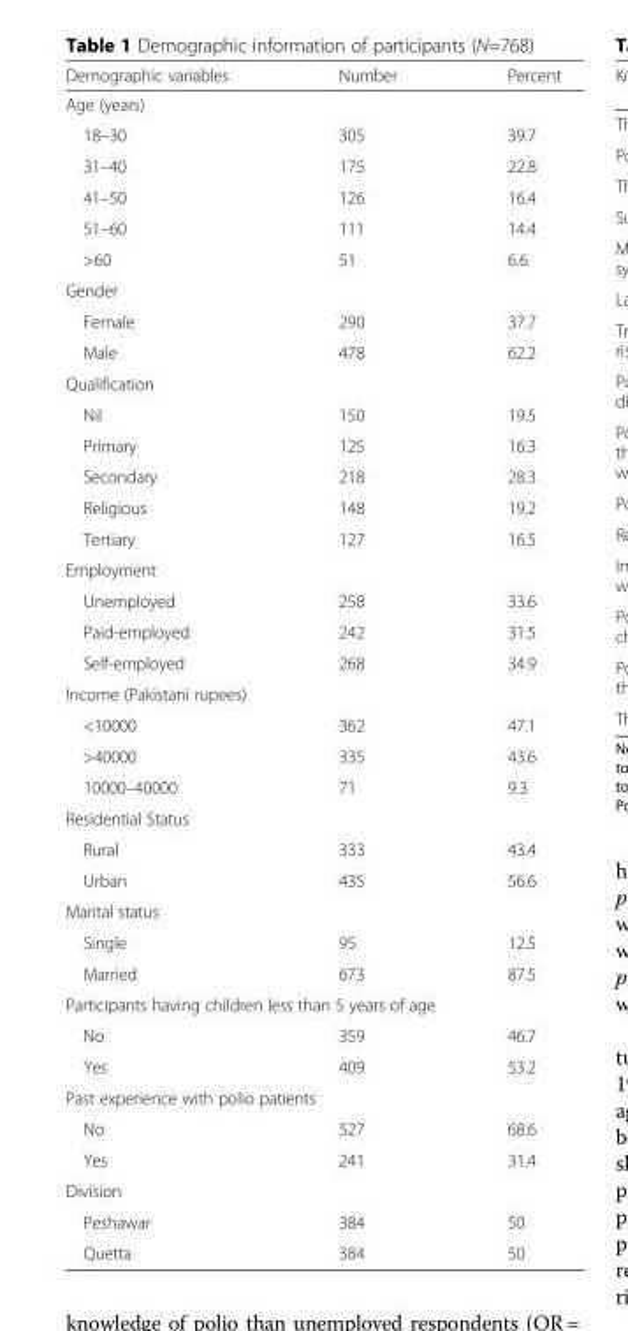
<table><thead><tr><td>Demographic variables</td><td>Number</td><td>Percent</td></tr></thead><tbody><tr><td colspan="3">Age (years)</td></tr><tr><td>18–30</td><td>305</td><td>39.7</td></tr><tr><td>31–40</td><td>175</td><td>22.8</td></tr><tr><td>41–50</td><td>126</td><td>16.4</td></tr><tr><td>51–60</td><td>111</td><td>14.4</td></tr><tr><td>&gt;60</td><td>51</td><td>6.6</td></tr><tr><td colspan="3">Gender</td></tr><tr><td>Female</td><td>290</td><td>37.7</td></tr><tr><td>Male</td><td>478</td><td>62.2</td></tr><tr><td colspan="3">Qualification</td></tr><tr><td>Nil</td><td>150</td><td>19.5</td></tr><tr><td>Primary</td><td>125</td><td>16.3</td></tr><tr><td>Secondary</td><td>218</td><td>28.3</td></tr><tr><td>Religious</td><td>148</td><td>19.2</td></tr><tr><td>Tertiary</td><td>127</td><td>16.5</td></tr><tr><td colspan="3">Employment</td></tr><tr><td>Unemployed</td><td>258</td><td>33.6</td></tr><tr><td>Paid-employed</td><td>242</td><td>31.5</td></tr><tr><td>Self-employed</td><td>268</td><td>34.9</td></tr><tr><td colspan="3">Income (Pakistani rupees)</td></tr><tr><td>&lt;10000</td><td>362</td><td>47.1</td></tr><tr><td>&gt;40000</td><td>335</td><td>43.6</td></tr><tr><td>10000–40000</td><td>71</td><td>9.3</td></tr><tr><td colspan="3">Residential Status</td></tr><tr><td>Rural</td><td>333</td><td>43.4</td></tr><tr><td>Urban</td><td>435</td><td>56.6</td></tr><tr><td colspan="3">Marital status</td></tr><tr><td>Single</td><td>95</td><td>12.5</td></tr><tr><td>Married</td><td>673</td><td>87.5</td></tr><tr><td colspan="3">Participants having children less than 5 years of age</td></tr><tr><td>No</td><td>359</td><td>46.7</td></tr><tr><td>Yes</td><td>409</td><td>53.2</td></tr><tr><td colspan="3">Past experience with polio patients</td></tr><tr><td>No</td><td>527</td><td>68.6</td></tr><tr><td>Yes</td><td>241</td><td>31.4</td></tr><tr><td colspan="3">Division</td></tr><tr><td>Peshawar</td><td>384</td><td>50</td></tr><tr><td>Quetta</td><td>384</td><td>50</td></tr></tbody></table>